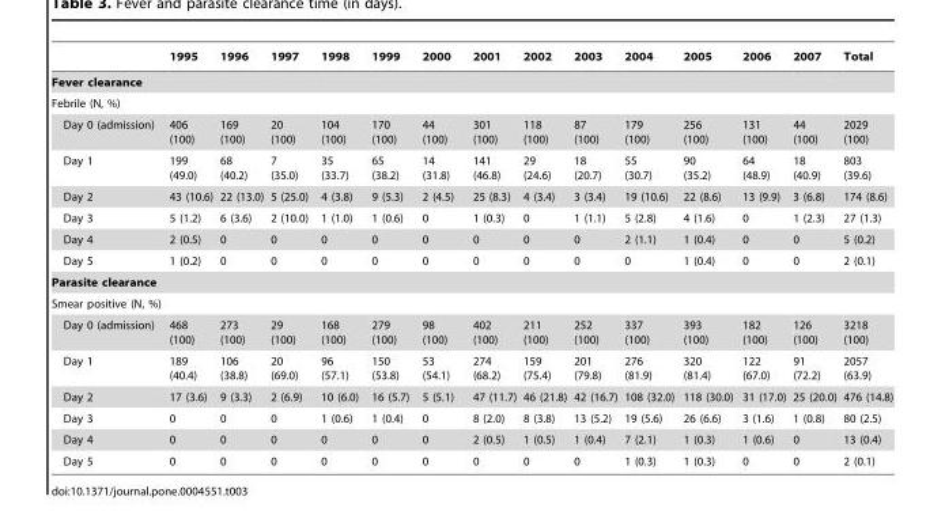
<table><thead><tr><td></td><td>1995</td><td>1996</td><td>1997</td><td>1998</td><td>1999</td><td>2000</td><td>2001</td><td>2002</td><td>2003</td><td>2004</td><td>2005</td><td>2006</td><td>2007</td><td>Total</td></tr></thead><tbody><tr><td colspan="15">Fever clearance</td></tr><tr><td colspan="15">Febrile (N, %)</td></tr><tr><td>Day 0 (admission)</td><td>406 (100)</td><td>169 (100)</td><td>20 (100)</td><td>104 (100)</td><td>170 (100)</td><td>44 (100)</td><td>301 (100)</td><td>118 (100)</td><td>87 (100)</td><td>179 (100)</td><td>256 (100)</td><td>131 (100)</td><td>44 (100)</td><td>2029 (100)</td></tr><tr><td>Day 1</td><td>199 (49.0)</td><td>68 (40.2)</td><td>7 (35.0)</td><td>35 (33.7)</td><td>65 (38.2)</td><td>14 (31.8)</td><td>141 (46.8)</td><td>29 (24.6)</td><td>18 (20.7)</td><td>55 (30.7)</td><td>90 (35.2)</td><td>64 (48.9)</td><td>18 (40.9)</td><td>803 (39.6)</td></tr><tr><td>Day 2</td><td>43 (10.6)</td><td>22 (13.0)</td><td>5 (25.0)</td><td>4 (3.8)</td><td>9 (5.3)</td><td>2 (4.5)</td><td>25 (8.3)</td><td>4 (3.4)</td><td>3 (3.4)</td><td>19 (10.6)</td><td>22 (8.6)</td><td>13 (9.9)</td><td>3 (6.8)</td><td>174 (8.6)</td></tr><tr><td>Day 3</td><td>5 (1.2)</td><td>6 (3.6)</td><td>2 (10.0)</td><td>1 (1.0)</td><td>1 (0.6)</td><td>0</td><td>1 (0.3)</td><td>0</td><td>1 (1.1)</td><td>5 (2.8)</td><td>4 (1.6)</td><td>0</td><td>1 (2.3)</td><td>27 (1.3)</td></tr><tr><td>Day 4</td><td>2 (0.5)</td><td>0</td><td>0</td><td>0</td><td>0</td><td>0</td><td>0</td><td>0</td><td>0</td><td>2 (1.1)</td><td>1 (0.4)</td><td>0</td><td>0</td><td>5 (0.2)</td></tr><tr><td>Day 5</td><td>1 (0.2)</td><td>0</td><td>0</td><td>0</td><td>0</td><td>0</td><td>0</td><td>0</td><td>0</td><td>0</td><td>1 (0.4)</td><td>0</td><td>0</td><td>2 (0.1)</td></tr><tr><td colspan="15">Parasite clearance</td></tr><tr><td colspan="15">Smear positive (N, %)</td></tr><tr><td>Day 0 (admission)</td><td>468 (100)</td><td>273 (100)</td><td>29 (100)</td><td>168 (100)</td><td>279 (100)</td><td>98 (100)</td><td>402 (100)</td><td>211 (100)</td><td>252 (100)</td><td>337 (100)</td><td>393 (100)</td><td>182 (100)</td><td>126 (100)</td><td>3218 (100)</td></tr><tr><td>Day 1</td><td>189 (40.4)</td><td>106 (38.8)</td><td>20 (69.0)</td><td>96 (57.1)</td><td>150 (53.8)</td><td>53 (54.1)</td><td>274 (68.2)</td><td>159 (75.4)</td><td>201 (79.8)</td><td>276 (81.9)</td><td>320 (81.4)</td><td>122 (67.0)</td><td>91 (72.2)</td><td>2057 (63.9)</td></tr><tr><td>Day 2</td><td>17 (3.6)</td><td>9 (3.3)</td><td>2 (6.9)</td><td>10 (6.0)</td><td>16 (5.7)</td><td>5 (5.1)</td><td>47 (11.7)</td><td>46 (21.8)</td><td>42 (16.7)</td><td>108 (32.0)</td><td>118 (30.0)</td><td>31 (17.0)</td><td>25 (20.0)</td><td>476 (14.8)</td></tr><tr><td>Day 3</td><td>0</td><td>0</td><td>0</td><td>1 (0.6)</td><td>1 (0.4)</td><td>0</td><td>8 (2.0)</td><td>8 (3.8)</td><td>13 (5.2)</td><td>19 (5.6)</td><td>26 (6.6)</td><td>3 (1.6)</td><td>1 (0.8)</td><td>80 (2.5)</td></tr><tr><td>Day 4</td><td>0</td><td>0</td><td>0</td><td>0</td><td>0</td><td>0</td><td>2 (0.5)</td><td>1 (0.5)</td><td>1 (0.4)</td><td>7 (2.1)</td><td>1 (0.3)</td><td>1 (0.6)</td><td>0</td><td>13 (0.4)</td></tr><tr><td>Day 5</td><td>0</td><td>0</td><td>0</td><td>0</td><td>0</td><td>0</td><td>0</td><td>0</td><td>0</td><td>1 (0.3)</td><td>1 (0.3)</td><td>0</td><td>0</td><td>2 (0.1)</td></tr></tbody></table>